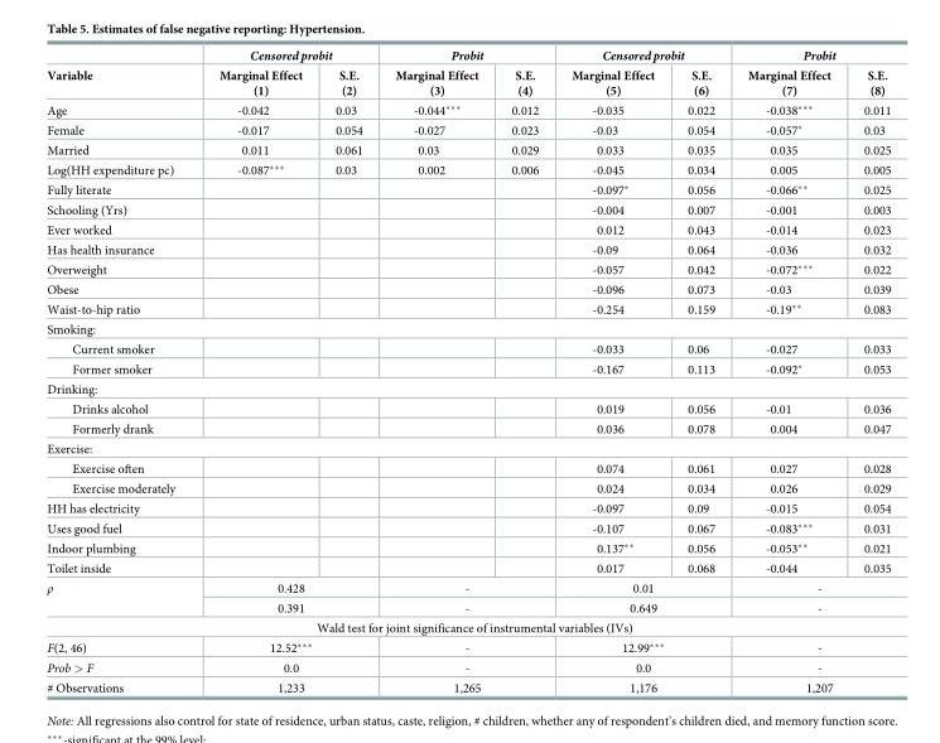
<table><thead><tr><td rowspan="2">Variable</td><td colspan="2">Censored probit</td><td colspan="2">Probit</td><td colspan="2">Censored probit</td><td colspan="2">Probit</td></tr><tr><td>Marginal Effect (1)</td><td>S.E. (2)</td><td>Marginal Effect (3)</td><td>S.E. (4)</td><td>Marginal Effect (5)</td><td>S.E. (6)</td><td>Marginal Effect (7)</td><td>S.E. (8)</td></tr></thead><tbody><tr><td>Age</td><td>-0.042</td><td>0.03</td><td>-0.044***</td><td>0.012</td><td>-0.035</td><td>0.022</td><td>-0.038***</td><td>0.011</td></tr><tr><td>Female</td><td>-0.017</td><td>0.054</td><td>-0.027</td><td>0.023</td><td>-0.03</td><td>0.054</td><td>-0.057*</td><td>0.03</td></tr><tr><td>Married</td><td>0.011</td><td>0.061</td><td>0.03</td><td>0.029</td><td>0.033</td><td>0.035</td><td>0.035</td><td>0.025</td></tr><tr><td>Log(HH expenditure pc)</td><td>-0.087***</td><td>0.03</td><td>0.002</td><td>0.006</td><td>-0.045</td><td>0.034</td><td>0.005</td><td>0.005</td></tr><tr><td>Fully literate</td><td></td><td></td><td></td><td></td><td>-0.097*</td><td>0.056</td><td>-0.066**</td><td>0.025</td></tr><tr><td>Schooling (Yrs)</td><td></td><td></td><td></td><td></td><td>-0.004</td><td>0.007</td><td>-0.001</td><td>0.003</td></tr><tr><td>Ever worked</td><td></td><td></td><td></td><td></td><td>0.012</td><td>0.043</td><td>-0.014</td><td>0.023</td></tr><tr><td>Has health insurance</td><td></td><td></td><td></td><td></td><td>-0.09</td><td>0.064</td><td>-0.036</td><td>0.032</td></tr><tr><td>Overweight</td><td></td><td></td><td></td><td></td><td>-0.057</td><td>0.042</td><td>-0.072***</td><td>0.022</td></tr><tr><td>Obese</td><td></td><td></td><td></td><td></td><td>-0.096</td><td>0.073</td><td>-0.03</td><td>0.039</td></tr><tr><td>Waist-to-hip ratio</td><td></td><td></td><td></td><td></td><td>-0.254</td><td>0.159</td><td>-0.19**</td><td>0.083</td></tr><tr><td colspan="9">Smoking:</td></tr><tr><td>Current smoker</td><td></td><td></td><td></td><td></td><td>-0.033</td><td>0.06</td><td>-0.027</td><td>0.033</td></tr><tr><td>Former smoker</td><td></td><td></td><td></td><td></td><td>-0.167</td><td>0.113</td><td>-0.092*</td><td>0.053</td></tr><tr><td colspan="9">Drinking:</td></tr><tr><td>Drinks alcohol</td><td></td><td></td><td></td><td></td><td>0.019</td><td>0.056</td><td>-0.01</td><td>0.036</td></tr><tr><td>Formerly drank</td><td></td><td></td><td></td><td></td><td>0.036</td><td>0.078</td><td>0.004</td><td>0.047</td></tr><tr><td colspan="9">Exercise:</td></tr><tr><td>Exercise often</td><td></td><td></td><td></td><td></td><td>0.074</td><td>0.061</td><td>0.027</td><td>0.028</td></tr><tr><td>Exercise moderately</td><td></td><td></td><td></td><td></td><td>0.024</td><td>0.034</td><td>0.026</td><td>0.029</td></tr><tr><td>HH has electricity</td><td></td><td></td><td></td><td></td><td>-0.097</td><td>0.09</td><td>-0.015</td><td>0.054</td></tr><tr><td>Uses good fuel</td><td></td><td></td><td></td><td></td><td>-0.107</td><td>0.067</td><td>-0.083***</td><td>0.031</td></tr><tr><td>Indoor plumbing</td><td></td><td></td><td></td><td></td><td>0.137**</td><td>0.056</td><td>-0.053**</td><td>0.021</td></tr><tr><td>Toilet inside</td><td></td><td></td><td></td><td></td><td>0.017</td><td>0.068</td><td>-0.044</td><td>0.035</td></tr><tr><td rowspan="2">ρ</td><td colspan="2">0.428</td><td colspan="2">-</td><td colspan="2">0.01</td><td colspan="2">-</td></tr><tr><td colspan="2">0.391</td><td colspan="2">-</td><td colspan="2">0.649</td><td colspan="2">-</td></tr><tr><td colspan="9">Wald test for joint significance of instrumental variables (IVs)</td></tr><tr><td>F(2, 46)</td><td colspan="2">12.52***</td><td colspan="2">-</td><td colspan="2">12.99***</td><td colspan="2">-</td></tr><tr><td>Prob &gt; F</td><td colspan="2">0.0</td><td colspan="2">-</td><td colspan="2">0.0</td><td colspan="2">-</td></tr><tr><td># Observations</td><td colspan="2">1,233</td><td colspan="2">1,265</td><td colspan="2">1,176</td><td colspan="2">1,207</td></tr></tbody></table>